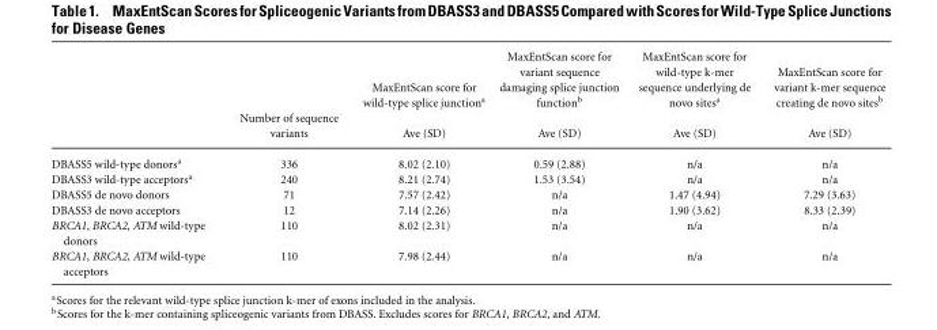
<table><thead><tr><td rowspan="2"></td><td rowspan="2">Number of sequence variants</td><td rowspan="2">MaxEntScan score for wild-type splice junction<sup>a</sup> Ave (SD)</td><td rowspan="2">MaxEntScan score for variant sequence damaging splice junction function<sup>b</sup> Ave (SD)</td><td rowspan="2">MaxEntScan score for wild-type k-mer sequence underlying de novo sites<sup>a</sup> Ave (SD)</td><td rowspan="2">MaxEntScan score for variant k-mer sequence creating de novo sites<sup>b</sup> Ave (SD)</td></tr><tr></tr></thead><tbody><tr><td>DBASS5 wild-type donors<sup>a</sup></td><td>336</td><td>8.02 (2.10)</td><td>0.59 (2.88)</td><td>n/a</td><td>n/a</td></tr><tr><td>DBASS3 wild-type acceptors<sup>a</sup></td><td>240</td><td>8.21 (2.74)</td><td>1.53 (3.54)</td><td>n/a</td><td>n/a</td></tr><tr><td>DBASS5 de novo donors</td><td>71</td><td>7.57 (2.42)</td><td>n/a</td><td>1.47 (4.94)</td><td>7.29 (3.63)</td></tr><tr><td>DBASS3 de novo acceptors</td><td>12</td><td>7.14 (2.26)</td><td>n/a</td><td>1.90 (3.62)</td><td>8.33 (2.39)</td></tr><tr><td>BRCA1, BRCA2, ATM wild-type donors</td><td>110</td><td>8.02 (2.31)</td><td>n/a</td><td>n/a</td><td>n/a</td></tr><tr><td>BRCA1, BRCA2, ATM wild-type acceptors</td><td>110</td><td>7.98 (2.44)</td><td>n/a</td><td>n/a</td><td>n/a</td></tr></tbody></table>